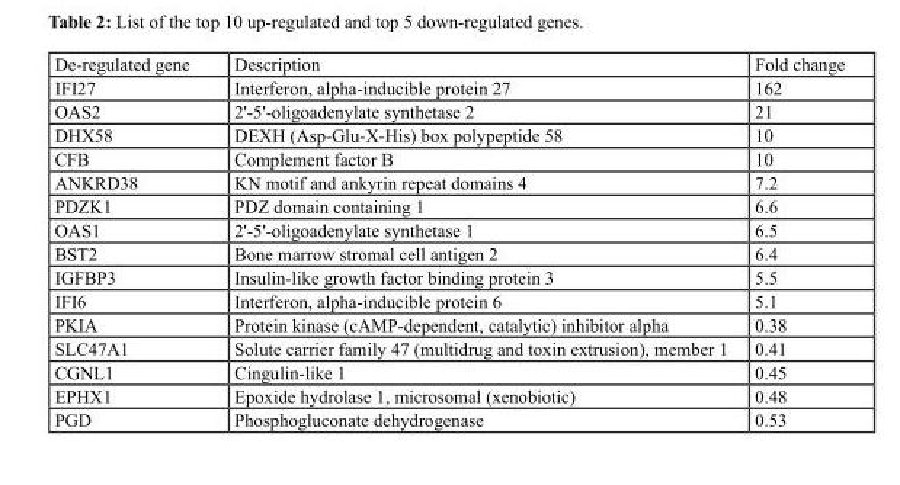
<table><thead><tr><td>De-regulated gene</td><td>Description</td><td>Fold change</td></tr></thead><tbody><tr><td>IFI27</td><td>Interferon, alpha-inducible protein 27</td><td>162</td></tr><tr><td>OAS2</td><td>2&#x27;-5&#x27;-oligoadenylate synthetase 2</td><td>21</td></tr><tr><td>DHX58</td><td>DEXH (Asp-Glu-X-His) box polypeptide 58</td><td>10</td></tr><tr><td>CFB</td><td>Complement factor B</td><td>10</td></tr><tr><td>ANKRD38</td><td>KN motif and ankyrin repeat domains 4</td><td>7.2</td></tr><tr><td>PDZK1</td><td>PDZ domain containing 1</td><td>6.6</td></tr><tr><td>OAS1</td><td>2&#x27;-5&#x27;-oligoadenylate synthetase 1</td><td>6.5</td></tr><tr><td>BST2</td><td>Bone marrow stromal cell antigen 2</td><td>6.4</td></tr><tr><td>IGFBP3</td><td>Insulin-like growth factor binding protein 3</td><td>5.5</td></tr><tr><td>IFI6</td><td>Interferon, alpha-inducible protein 6</td><td>5.1</td></tr><tr><td>PKIA</td><td>Protein kinase (cAMP-dependent, catalytic) inhibitor alpha</td><td>0.38</td></tr><tr><td>SLC47A1</td><td>Solute carrier family 47 (multidrug and toxin extrusion), member 1</td><td>0.41</td></tr><tr><td>CGNL1</td><td>Cingulin-like 1</td><td>0.45</td></tr><tr><td>EPHX1</td><td>Epoxide hydrolase 1, microsomal (xenobiotic)</td><td>0.48</td></tr><tr><td>PGD</td><td>Phosphogluconate dehydrogenase</td><td>0.53</td></tr></tbody></table>